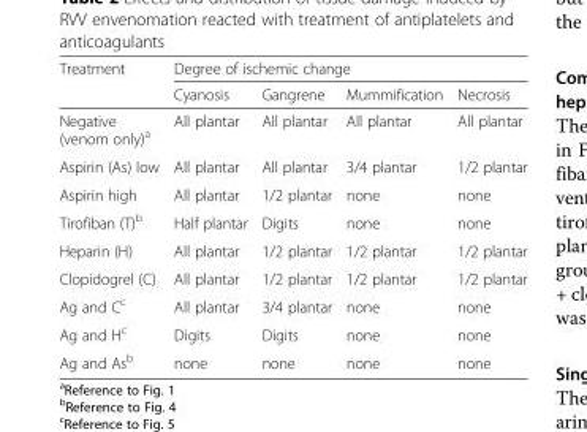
<table><thead><tr><td rowspan="2">Treatment</td><td colspan="4">Degree of ischemic change</td></tr><tr><td>Cyanosis</td><td>Gangrene</td><td>Mummification</td><td>Necrosis</td></tr></thead><tbody><tr><td>Negative (venom only)<sup>a</sup></td><td>All plantar</td><td>All plantar</td><td>All plantar</td><td>All plantar</td></tr><tr><td>Aspirin (As) low</td><td>All plantar</td><td>All plantar</td><td>3/4 plantar</td><td>1/2 plantar</td></tr><tr><td>Aspirin high</td><td>All plantar</td><td>1/2 plantar</td><td>none</td><td>none</td></tr><tr><td>Tirofiban (T)<sup>b</sup></td><td>Half plantar</td><td>Digits</td><td>none</td><td>none</td></tr><tr><td>Heparin (H)</td><td>All plantar</td><td>1/2 plantar</td><td>1/2 plantar</td><td>1/2 plantar</td></tr><tr><td>Clopidogrel (C)</td><td>All plantar</td><td>1/2 plantar</td><td>1/2 plantar</td><td>1/2 plantar</td></tr><tr><td>Ag and C<sup>c</sup></td><td>All plantar</td><td>3/4 plantar</td><td>none</td><td>none</td></tr><tr><td>Ag and H<sup>c</sup></td><td>Digits</td><td>Digits</td><td>none</td><td>none</td></tr><tr><td>Ag and As<sup>b</sup></td><td>none</td><td>none</td><td>none</td><td>none</td></tr></tbody></table>